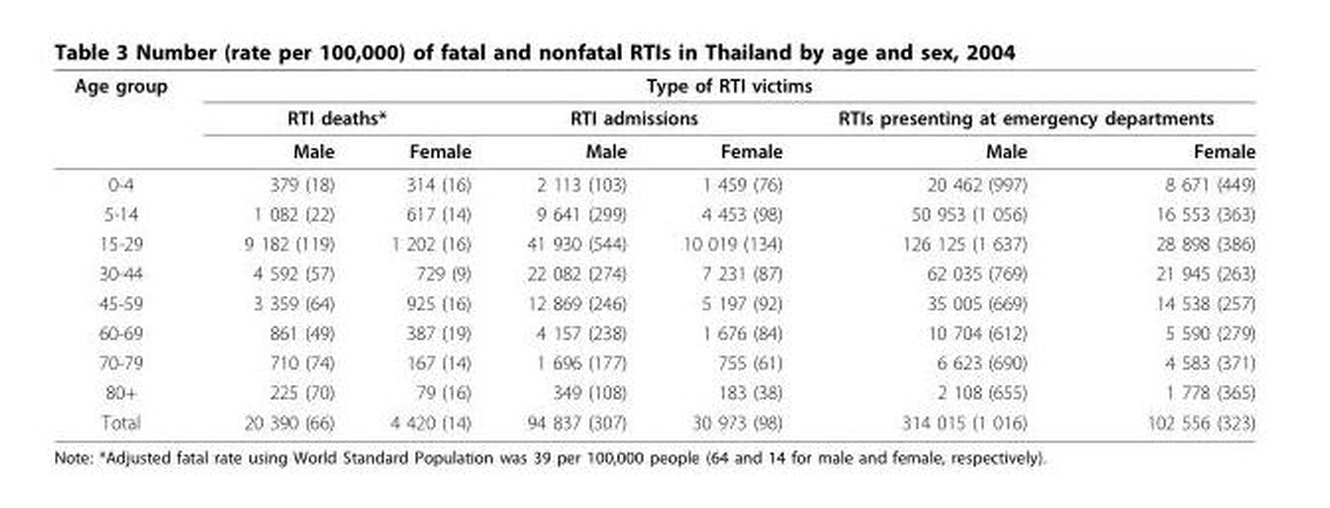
<table><thead><tr><td rowspan="3">Age group</td><td colspan="6">Type of RTI victims</td></tr><tr><td colspan="2">RTI deaths*</td><td colspan="2">RTI admissions</td><td colspan="2">RTIs presenting at emergency departments</td></tr><tr><td>Male</td><td>Female</td><td>Male</td><td>Female</td><td>Male</td><td>Female</td></tr></thead><tbody><tr><td>0-4</td><td>379 (18)</td><td>314 (16)</td><td>2 113 (103)</td><td>1 459 (76)</td><td>20 462 (997)</td><td>8 671 (449)</td></tr><tr><td>5-14</td><td>1 082 (22)</td><td>617 (14)</td><td>9 641 (299)</td><td>4 453 (98)</td><td>50 953 (1 056)</td><td>16 553 (363)</td></tr><tr><td>15-29</td><td>9 182 (119)</td><td>1 202 (16)</td><td>41 930 (544)</td><td>10 019 (134)</td><td>126 125 (1 637)</td><td>28 898 (386)</td></tr><tr><td>30-44</td><td>4 592 (57)</td><td>729 (9)</td><td>22 082 (274)</td><td>7 231 (87)</td><td>62 035 (769)</td><td>21 945 (263)</td></tr><tr><td>45-59</td><td>3 359 (64)</td><td>925 (16)</td><td>12 869 (246)</td><td>5 197 (92)</td><td>35 005 (669)</td><td>14 538 (257)</td></tr><tr><td>60-69</td><td>861 (49)</td><td>387 (19)</td><td>4 157 (238)</td><td>1 676 (84)</td><td>10 704 (612)</td><td>5 590 (279)</td></tr><tr><td>70-79</td><td>710 (74)</td><td>167 (14)</td><td>1 696 (177)</td><td>755 (61)</td><td>6 623 (690)</td><td>4 583 (371)</td></tr><tr><td>80+</td><td>225 (70)</td><td>79 (16)</td><td>349 (108)</td><td>183 (38)</td><td>2 108 (655)</td><td>1 778 (365)</td></tr><tr><td>Total</td><td>20 390 (66)</td><td>4 420 (14)</td><td>94 837 (307)</td><td>30 973 (98)</td><td>314 015 (1 016)</td><td>102 556 (323)</td></tr></tbody></table>